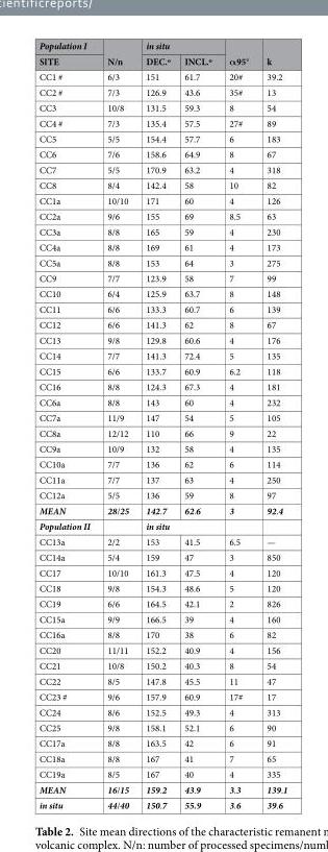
<table><thead><tr><td rowspan="2">Population I SITE</td><td rowspan="2">N/n</td><td colspan="2">in situ</td><td rowspan="2">α95°</td><td rowspan="2">k</td></tr><tr><td>DEC.º</td><td>INCL.º</td></tr></thead><tbody><tr><td>CC1 #</td><td>6/3</td><td>151</td><td>61.7</td><td>20#</td><td>39.2</td></tr><tr><td>CC2 #</td><td>7/3</td><td>126.9</td><td>43.6</td><td>35#</td><td>13</td></tr><tr><td>CC3</td><td>10/8</td><td>131.5</td><td>59.3</td><td>8</td><td>54</td></tr><tr><td>CC4 #</td><td>7/3</td><td>135.4</td><td>57.5</td><td>27#</td><td>89</td></tr><tr><td>CC5</td><td>5/5</td><td>154.4</td><td>57.7</td><td>6</td><td>183</td></tr><tr><td>CC6</td><td>7/6</td><td>158.6</td><td>64.9</td><td>8</td><td>67</td></tr><tr><td>CC7</td><td>5/5</td><td>170.9</td><td>63.2</td><td>4</td><td>318</td></tr><tr><td>CC8</td><td>8/4</td><td>142.4</td><td>58</td><td>10</td><td>82</td></tr><tr><td>CC1a</td><td>10/10</td><td>171</td><td>60</td><td>4</td><td>126</td></tr><tr><td>CC2a</td><td>9/6</td><td>155</td><td>69</td><td>8.5</td><td>63</td></tr><tr><td>CC3a</td><td>8/8</td><td>165</td><td>59</td><td>4</td><td>230</td></tr><tr><td>CC4a</td><td>8/8</td><td>169</td><td>61</td><td>4</td><td>173</td></tr><tr><td>CC5a</td><td>8/8</td><td>153</td><td>64</td><td>3</td><td>275</td></tr><tr><td>CC9</td><td>7/7</td><td>123.9</td><td>58</td><td>7</td><td>99</td></tr><tr><td>CC10</td><td>6/4</td><td>125.9</td><td>63.7</td><td>8</td><td>148</td></tr><tr><td>CC11</td><td>6/6</td><td>133.3</td><td>60.7</td><td>6</td><td>139</td></tr><tr><td>CC12</td><td>6/6</td><td>141.3</td><td>62</td><td>8</td><td>67</td></tr><tr><td>CC13</td><td>9/8</td><td>129.8</td><td>60.6</td><td>4</td><td>176</td></tr><tr><td>CC14</td><td>7/7</td><td>141.3</td><td>72.4</td><td>5</td><td>135</td></tr><tr><td>CC15</td><td>6/6</td><td>133.7</td><td>60.9</td><td>6.2</td><td>118</td></tr><tr><td>CC16</td><td>8/8</td><td>124.3</td><td>67.3</td><td>4</td><td>181</td></tr><tr><td>CC6a</td><td>8/8</td><td>143</td><td>60</td><td>4</td><td>232</td></tr><tr><td>CC7a</td><td>11/9</td><td>147</td><td>54</td><td>5</td><td>105</td></tr><tr><td>CC8a</td><td>12/12</td><td>110</td><td>66</td><td>9</td><td>22</td></tr><tr><td>CC9a</td><td>10/9</td><td>132</td><td>58</td><td>4</td><td>135</td></tr><tr><td>CC10a</td><td>7/7</td><td>136</td><td>62</td><td>6</td><td>114</td></tr><tr><td>CC11a</td><td>7/7</td><td>137</td><td>63</td><td>4</td><td>250</td></tr><tr><td>CC12a</td><td>5/5</td><td>136</td><td>59</td><td>8</td><td>97</td></tr><tr><td>MEAN</td><td>28/25</td><td>142.7</td><td>62.6</td><td>3</td><td>92.4</td></tr><tr><td>Population II</td><td></td><td colspan="2">in situ</td><td></td><td></td></tr><tr><td>CC13a</td><td>2/2</td><td>153</td><td>41.5</td><td>6.5</td><td>—</td></tr><tr><td>CC14a</td><td>5/4</td><td>159</td><td>47</td><td>3</td><td>850</td></tr><tr><td>CC17</td><td>10/10</td><td>161.3</td><td>47.5</td><td>4</td><td>120</td></tr><tr><td>CC18</td><td>9/8</td><td>154.3</td><td>48.6</td><td>5</td><td>120</td></tr><tr><td>CC19</td><td>6/6</td><td>164.5</td><td>42.1</td><td>2</td><td>826</td></tr><tr><td>CC15a</td><td>9/9</td><td>166.5</td><td>39</td><td>4</td><td>160</td></tr><tr><td>CC16a</td><td>8/8</td><td>170</td><td>38</td><td>6</td><td>82</td></tr><tr><td>CC20</td><td>11/11</td><td>152.2</td><td>40.9</td><td>4</td><td>156</td></tr><tr><td>CC21</td><td>10/8</td><td>150.2</td><td>40.3</td><td>8</td><td>54</td></tr><tr><td>CC22</td><td>8/5</td><td>147.8</td><td>45.5</td><td>11</td><td>47</td></tr><tr><td>CC23 #</td><td>9/6</td><td>157.9</td><td>60.9</td><td>17#</td><td>17</td></tr><tr><td>CC24</td><td>8/6</td><td>152.5</td><td>49.3</td><td>4</td><td>313</td></tr><tr><td>CC25</td><td>9/8</td><td>158.1</td><td>52.1</td><td>6</td><td>90</td></tr><tr><td>CC17a</td><td>8/8</td><td>163.5</td><td>42</td><td>6</td><td>91</td></tr><tr><td>CC18a</td><td>8/8</td><td>167</td><td>41</td><td>7</td><td>65</td></tr><tr><td>CC19a</td><td>8/5</td><td>167</td><td>40</td><td>4</td><td>335</td></tr><tr><td>MEAN</td><td>16/15</td><td>159.2</td><td>43.9</td><td>3.3</td><td>139.1</td></tr><tr><td>in situ</td><td>44/40</td><td>150.7</td><td>55.9</td><td>3.6</td><td>39.6</td></tr></tbody></table>